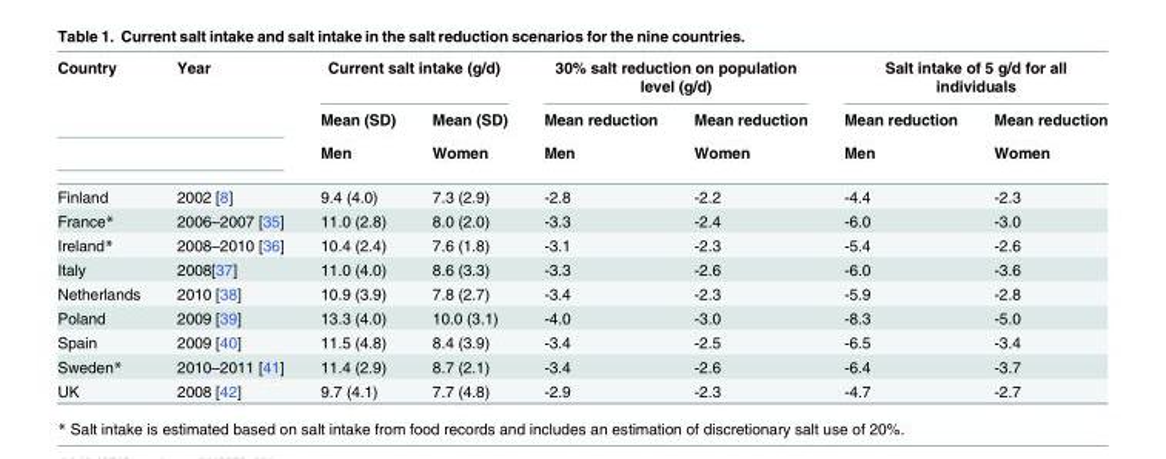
<table><thead><tr><td rowspan="3">Country</td><td rowspan="3">Year</td><td colspan="2">Current salt intake (g/d)</td><td colspan="2">30% salt reduction on population level (g/d)</td><td colspan="2">Salt intake of 5 g/d for all individuals</td></tr><tr><td rowspan="2">Mean (SD) Men</td><td rowspan="2">Mean (SD) Women</td><td rowspan="2">Mean reduction Men</td><td rowspan="2">Mean reduction Women</td><td rowspan="2">Mean reduction Men</td><td rowspan="2">Mean reduction Women</td></tr><tr></tr></thead><tbody><tr><td>Finland</td><td>2002 [8]</td><td>9.4 (4.0)</td><td>7.3 (2.9)</td><td>-2.8</td><td>-2.2</td><td>-4.4</td><td>-2.3</td></tr><tr><td>France*</td><td>2006–2007 [35]</td><td>11.0 (2.8)</td><td>8.0 (2.0)</td><td>-3.3</td><td>-2.4</td><td>-6.0</td><td>-3.0</td></tr><tr><td>Ireland*</td><td>2008–2010 [36]</td><td>10.4 (2.4)</td><td>7.6 (1.8)</td><td>-3.1</td><td>-2.3</td><td>-5.4</td><td>-2.6</td></tr><tr><td>Italy</td><td>2008[37]</td><td>11.0 (4.0)</td><td>8.6 (3.3)</td><td>-3.3</td><td>-2.6</td><td>-6.0</td><td>-3.6</td></tr><tr><td>Netherlands</td><td>2010 [38]</td><td>10.9 (3.9)</td><td>7.8 (2.7)</td><td>-3.4</td><td>-2.3</td><td>-5.9</td><td>-2.8</td></tr><tr><td>Poland</td><td>2009 [39]</td><td>13.3 (4.0)</td><td>10.0 (3.1)</td><td>-4.0</td><td>-3.0</td><td>-8.3</td><td>-5.0</td></tr><tr><td>Spain</td><td>2009 [40]</td><td>11.5 (4.8)</td><td>8.4 (3.9)</td><td>-3.4</td><td>-2.5</td><td>-6.5</td><td>-3.4</td></tr><tr><td>Sweden*</td><td>2010–2011 [41]</td><td>11.4 (2.9)</td><td>8.7 (2.1)</td><td>-3.4</td><td>-2.6</td><td>-6.4</td><td>-3.7</td></tr><tr><td>UK</td><td>2008 [42]</td><td>9.7 (4.1)</td><td>7.7 (4.8)</td><td>-2.9</td><td>-2.3</td><td>-4.7</td><td>-2.7</td></tr></tbody></table>